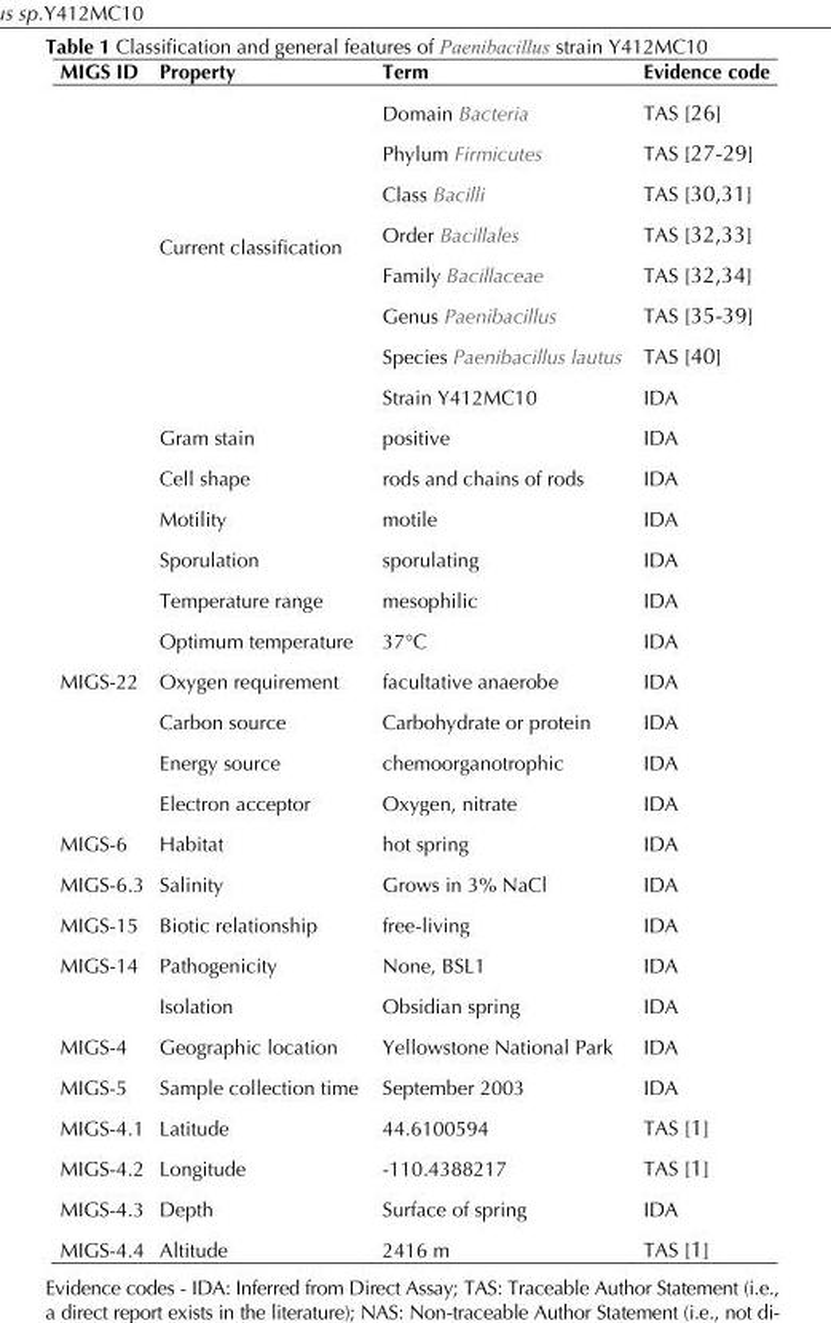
<table><thead><tr><td>MIGS ID</td><td>Property</td><td>Term</td><td>Evidence code</td></tr></thead><tbody><tr><td rowspan="8"></td><td rowspan="8">Current classification</td><td>Domain Bacteria</td><td>TAS [26]</td></tr><tr><td>Phylum Firmicutes</td><td>TAS [27-29]</td></tr><tr><td>Class Bacilli</td><td>TAS [30,31]</td></tr><tr><td>Order Bacillales</td><td>TAS [32,33]</td></tr><tr><td>Family Bacillaceae</td><td>TAS [32,34]</td></tr><tr><td>Genus Paenibacillus</td><td>TAS [35-39]</td></tr><tr><td>Species Paenibacillus lautus</td><td>TAS [40]</td></tr><tr><td>Strain Y412MC10</td><td>IDA</td></tr><tr><td></td><td>Gram stain</td><td>positive</td><td>IDA</td></tr><tr><td></td><td>Cell shape</td><td>rods and chains of rods</td><td>IDA</td></tr><tr><td></td><td>Motility</td><td>motile</td><td>IDA</td></tr><tr><td></td><td>Sporulation</td><td>sporulating</td><td>IDA</td></tr><tr><td></td><td>Temperature range</td><td>mesophilic</td><td>IDA</td></tr><tr><td></td><td>Optimum temperature</td><td>37°C</td><td>IDA</td></tr><tr><td rowspan="4">MIGS-22</td><td>Oxygen requirement</td><td>facultative anaerobe</td><td>IDA</td></tr><tr><td>Carbon source</td><td>Carbohydrate or protein</td><td>IDA</td></tr><tr><td>Energy source</td><td>chemoorganotrophic</td><td>IDA</td></tr><tr><td>Electron acceptor</td><td>Oxygen, nitrate</td><td>IDA</td></tr><tr><td>MIGS-6</td><td>Habitat</td><td>hot spring</td><td>IDA</td></tr><tr><td>MIGS-6.3</td><td>Salinity</td><td>Grows in 3% NaCl</td><td>IDA</td></tr><tr><td>MIGS-15</td><td>Biotic relationship</td><td>free-living</td><td>IDA</td></tr><tr><td rowspan="2">MIGS-14</td><td>Pathogenicity</td><td>None, BSL1</td><td>IDA</td></tr><tr><td>Isolation</td><td>Obsidian spring</td><td>IDA</td></tr><tr><td>MIGS-4</td><td>Geographic location</td><td>Yellowstone National Park</td><td>IDA</td></tr><tr><td>MIGS-5</td><td>Sample collection time</td><td>September 2003</td><td>IDA</td></tr><tr><td>MIGS-4.1</td><td>Latitude</td><td>44.6100594</td><td>TAS [1]</td></tr><tr><td>MIGS-4.2</td><td>Longitude</td><td>-110.4388217</td><td>TAS [1]</td></tr><tr><td>MIGS-4.3</td><td>Depth</td><td>Surface of spring</td><td>IDA</td></tr><tr><td>MIGS-4.4</td><td>Altitude</td><td>2416 m</td><td>TAS [1]</td></tr></tbody></table>